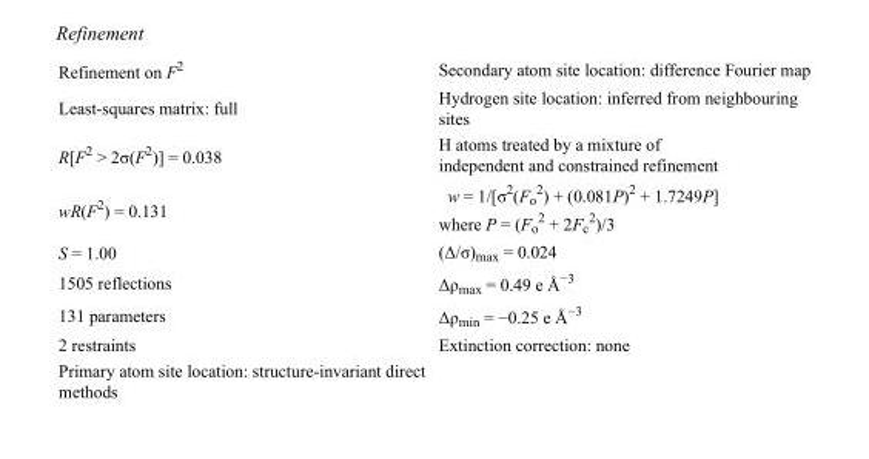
<table><tbody><tr><td>Refinement on F2</td><td>Secondary atom site location: difference Fourier map</td></tr><tr><td>Least-squares matrix: full</td><td>Hydrogen site location: inferred from neighbouring sites</td></tr><tr><td>R[F2 &gt; 2σ(F2)] = 0.038</td><td>H atoms treated by a mixture of independent and constrained refinement</td></tr><tr><td>wR(F2) = 0.131</td><td>w = 1/[σ2(Fo 2) + (0.081P)2 + 1.7249P] where P = (Fo 2 + 2Fc 2)/3</td></tr><tr><td>S = 1.00</td><td>(Δ/σ)max = 0.024</td></tr><tr><td>1505 reflections</td><td>Δρmax = 0.49 e Å−3</td></tr><tr><td>131 parameters</td><td>Δρmin = −0.25 e Å−3</td></tr><tr><td>2 restraints</td><td>Extinction correction: none</td></tr><tr><td>Primary atom site location: structure-invariant direct methods</td><td></td></tr></tbody></table>